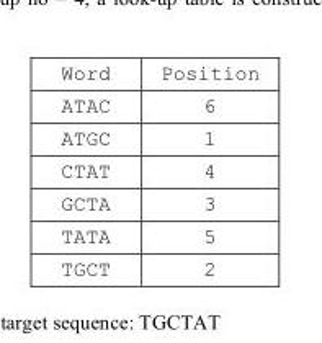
<table><tbody><tr><td>Word</td><td>Position</td></tr><tr><td>ATAC</td><td>6</td></tr><tr><td>ATGC</td><td>1</td></tr><tr><td>CTAT</td><td>4</td></tr><tr><td>GCTA</td><td>3</td></tr><tr><td>TATA</td><td>5</td></tr><tr><td>TGCT</td><td>2</td></tr></tbody></table>